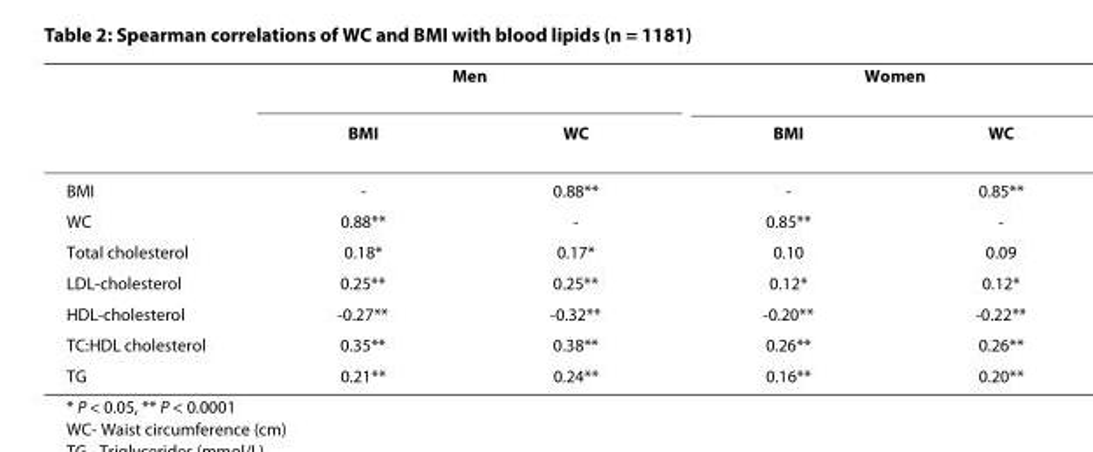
<table><thead><tr><td rowspan="2"></td><td colspan="2">Men</td><td colspan="2">Women</td></tr><tr><td>BMI</td><td>WC</td><td>BMI</td><td>WC</td></tr></thead><tbody><tr><td>BMI</td><td>-</td><td>0.88**</td><td>-</td><td>0.85**</td></tr><tr><td>WC</td><td>0.88**</td><td>-</td><td>0.85**</td><td>-</td></tr><tr><td>Total cholesterol</td><td>0.18*</td><td>0.17*</td><td>0.10</td><td>0.09</td></tr><tr><td>LDL-cholesterol</td><td>0.25**</td><td>0.25**</td><td>0.12*</td><td>0.12*</td></tr><tr><td>HDL-cholesterol</td><td>-0.27**</td><td>-0.32**</td><td>-0.20**</td><td>-0.22**</td></tr><tr><td>TC:HDL cholesterol</td><td>0.35**</td><td>0.38**</td><td>0.26**</td><td>0.26**</td></tr><tr><td>TG</td><td>0.21**</td><td>0.24**</td><td>0.16**</td><td>0.20**</td></tr></tbody></table>